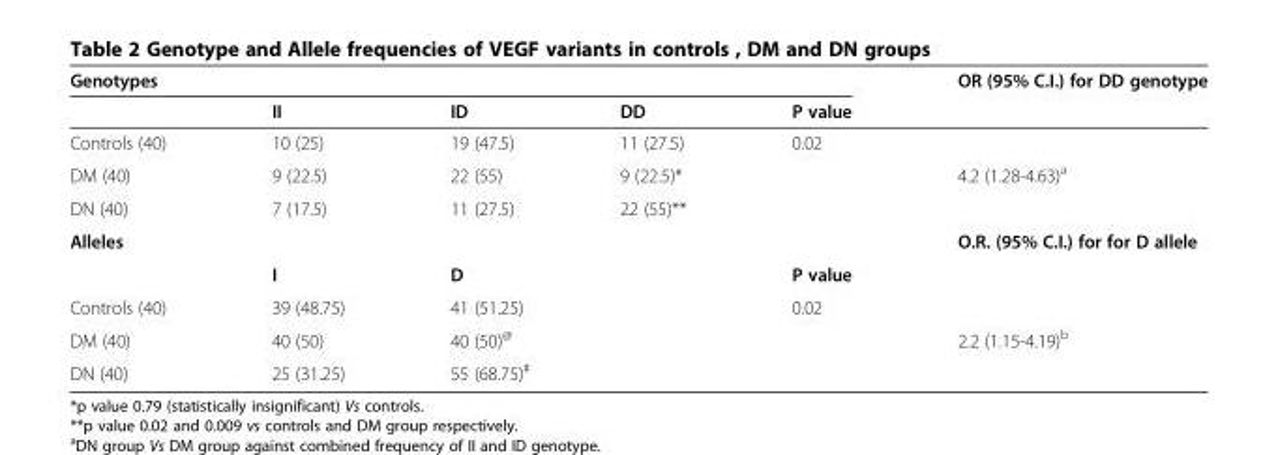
<table><thead><tr><td colspan="5">Genotypes</td><td rowspan="2">OR (95% C.I.) for DD genotype</td></tr><tr><td></td><td>II</td><td>ID</td><td>DD</td><td>P value</td></tr></thead><tbody><tr><td>Controls (40)</td><td>10 (25)</td><td>19 (47.5)</td><td>11 (27.5)</td><td rowspan="3">0.02</td><td></td></tr><tr><td>DM (40)</td><td>9 (22.5)</td><td>22 (55)</td><td>9 (22.5)*</td><td rowspan="2">4.2 (1.28-4.63)<sup>a</sup></td></tr><tr><td>DN (40)</td><td>7 (17.5)</td><td>11 (27.5)</td><td>22 (55)**</td></tr><tr><td colspan="5">Alleles</td><td rowspan="2">O.R. (95% C.I.) for for D allele</td></tr><tr><td></td><td>I</td><td colspan="2">D</td><td>P value</td></tr><tr><td>Controls (40)</td><td>39 (48.75)</td><td colspan="2">41 (51.25)</td><td rowspan="3">0.02</td><td></td></tr><tr><td>DM (40)</td><td>40 (50)</td><td colspan="2">40 (50)<sup>@</sup></td><td rowspan="2">2.2 (1.15-4.19)<sup>b</sup></td></tr><tr><td>DN (40)</td><td>25 (31.25)</td><td colspan="2">55 (68.75)<sup>#</sup></td></tr></tbody></table>